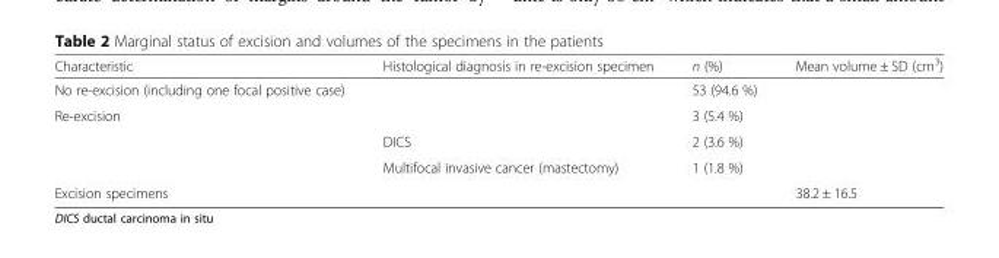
<table><thead><tr><td>Characteristic</td><td>Histological diagnosis in re-excision specimen</td><td>n (%)</td><td>Mean volume ± SD (cm<sup>3</sup>)</td></tr></thead><tbody><tr><td>No re-excision (including one focal positive case)</td><td></td><td>53 (94.6 %)</td><td></td></tr><tr><td rowspan="3">Re-excision</td><td></td><td>3 (5.4 %)</td><td></td></tr><tr><td>DICS</td><td>2 (3.6 %)</td><td></td></tr><tr><td>Multifocal invasive cancer (mastectomy)</td><td>1 (1.8 %)</td><td></td></tr><tr><td>Excision specimens</td><td></td><td></td><td>38.2 ± 16.5</td></tr></tbody></table>